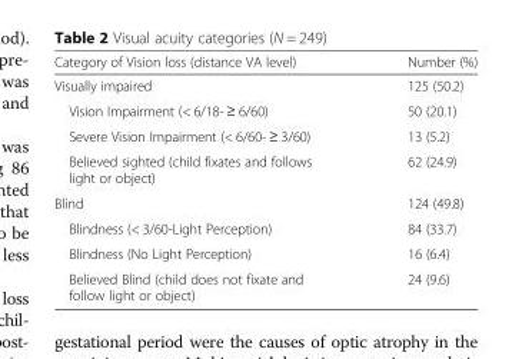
<table><thead><tr><td>Category of Vision loss (distance VA level)</td><td>Number (%)</td></tr></thead><tbody><tr><td>Visually impaired</td><td>125 (50.2)</td></tr><tr><td>Vision Impairment (&lt; 6/18- ≥ 6/60)</td><td>50 (20.1)</td></tr><tr><td>Severe Vision Impairment (&lt; 6/60- ≥ 3/60)</td><td>13 (5.2)</td></tr><tr><td>Believed sighted (child fixates and follows light or object)</td><td>62 (24.9)</td></tr><tr><td>Blind</td><td>124 (49.8)</td></tr><tr><td>Blindness (&lt; 3/60-Light Perception)</td><td>84 (33.7)</td></tr><tr><td>Blindness (No Light Perception)</td><td>16 (6.4)</td></tr><tr><td>Believed Blind (child does not fixate and follow light or object)</td><td>24 (9.6)</td></tr></tbody></table>